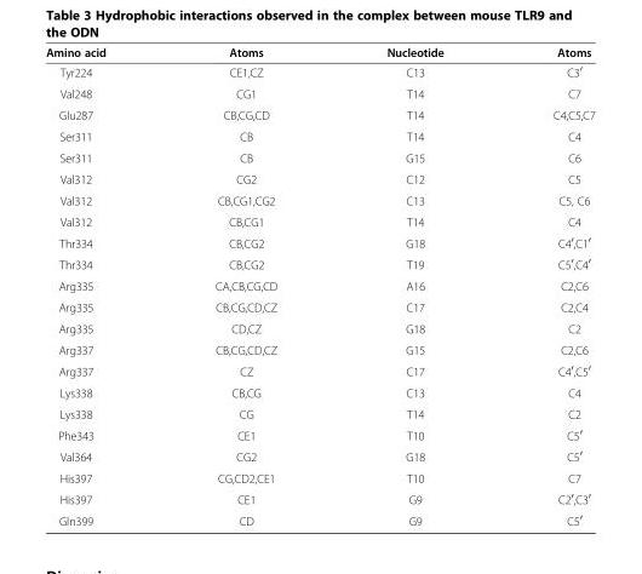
<table><thead><tr><td>Amino acid</td><td>Atoms</td><td>Nucleotide</td><td>Atoms</td></tr></thead><tbody><tr><td>Tyr224</td><td>CE1,CZ</td><td>C13</td><td>C3<sup>′</sup></td></tr><tr><td>Val248</td><td>CG1</td><td>T14</td><td>C7</td></tr><tr><td>Glu287</td><td>CB,CG,CD</td><td>T14</td><td>C4,C5,C7</td></tr><tr><td>Ser311</td><td>CB</td><td>T14</td><td>C4</td></tr><tr><td>Ser311</td><td>CB</td><td>G15</td><td>C6</td></tr><tr><td>Val312</td><td>CG2</td><td>C12</td><td>C5</td></tr><tr><td>Val312</td><td>CB,CG1,CG2</td><td>C13</td><td>C5, C6</td></tr><tr><td>Val312</td><td>CB,CG1</td><td>T14</td><td>C4</td></tr><tr><td>Thr334</td><td>CB,CG2</td><td>G18</td><td>C4<sup>′</sup>,C1<sup>′</sup></td></tr><tr><td>Thr334</td><td>CB,CG2</td><td>T19</td><td>C5<sup>′</sup>,C4<sup>′</sup></td></tr><tr><td>Arg335</td><td>CA,CB,CG,CD</td><td>A16</td><td>C2,C6</td></tr><tr><td>Arg335</td><td>CB,CG,CD,CZ</td><td>C17</td><td>C2,C4</td></tr><tr><td>Arg335</td><td>CD,CZ</td><td>G18</td><td>C2</td></tr><tr><td>Arg337</td><td>CB,CG,CD,CZ</td><td>G15</td><td>C2,C6</td></tr><tr><td>Arg337</td><td>CZ</td><td>C17</td><td>C4<sup>′</sup>,C5<sup>′</sup></td></tr><tr><td>Lys338</td><td>CB,CG</td><td>C13</td><td>C4</td></tr><tr><td>Lys338</td><td>CG</td><td>T14</td><td>C2</td></tr><tr><td>Phe343</td><td>CE1</td><td>T10</td><td>C5<sup>′</sup></td></tr><tr><td>Val364</td><td>CG2</td><td>G18</td><td>C5<sup>′</sup></td></tr><tr><td>His397</td><td>CG,CD2,CE1</td><td>T10</td><td>C7</td></tr><tr><td>His397</td><td>CE1</td><td>G9</td><td>C2<sup>′</sup>,C3<sup>′</sup></td></tr><tr><td>Gln399</td><td>CD</td><td>G9</td><td>C5<sup>′</sup></td></tr></tbody></table>